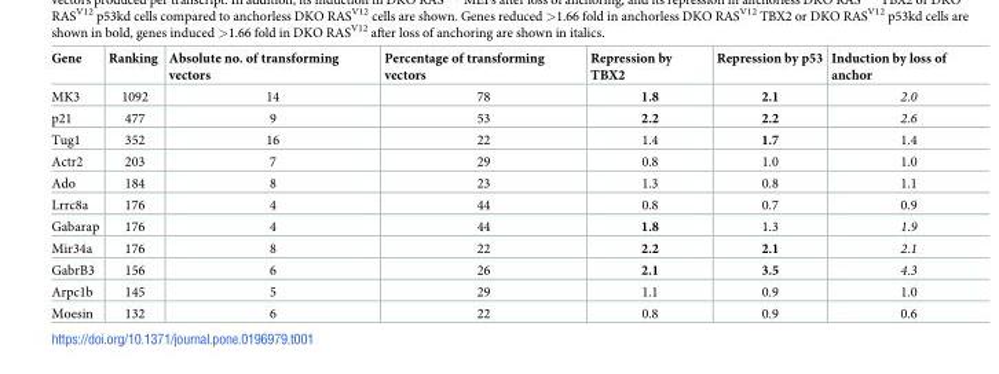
<table><thead><tr><td>Gene</td><td>Ranking</td><td>Absolute no. of transforming vectors</td><td>Percentage of transforming vectors</td><td>Repression by TBX2</td><td>Repression by p53</td><td>Induction by loss of anchor</td></tr></thead><tbody><tr><td>MK3</td><td>1092</td><td>14</td><td>78</td><td>1.8</td><td>2.1</td><td>2.0</td></tr><tr><td>p21</td><td>477</td><td>9</td><td>53</td><td>2.2</td><td>2.2</td><td>2.6</td></tr><tr><td>Tug1</td><td>352</td><td>16</td><td>22</td><td>1.4</td><td>1.7</td><td>1.4</td></tr><tr><td>Actr2</td><td>203</td><td>7</td><td>29</td><td>0.8</td><td>1.0</td><td>1.0</td></tr><tr><td>Ado</td><td>184</td><td>8</td><td>23</td><td>1.3</td><td>0.8</td><td>1.1</td></tr><tr><td>Lrrc8a</td><td>176</td><td>4</td><td>44</td><td>0.8</td><td>0.7</td><td>0.9</td></tr><tr><td>Gabarap</td><td>176</td><td>4</td><td>44</td><td>1.8</td><td>1.3</td><td>1.9</td></tr><tr><td>Mir34a</td><td>176</td><td>8</td><td>22</td><td>2.2</td><td>2.1</td><td>2.1</td></tr><tr><td>GabrB3</td><td>156</td><td>6</td><td>26</td><td>2.1</td><td>3.5</td><td>4.3</td></tr><tr><td>Arpc1b</td><td>145</td><td>5</td><td>29</td><td>1.1</td><td>0.9</td><td>1.0</td></tr><tr><td>Moesin</td><td>132</td><td>6</td><td>22</td><td>0.8</td><td>0.9</td><td>0.6</td></tr></tbody></table>